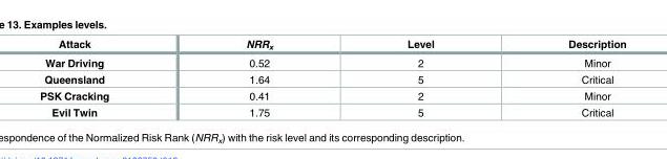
<table><thead><tr><td>Attack</td><td>NRR<sub>x</sub></td><td>Level</td><td>Description</td></tr></thead><tbody><tr><td>War Driving</td><td>0.52</td><td>2</td><td>Minor</td></tr><tr><td>Queensland</td><td>1.64</td><td>5</td><td>Critical</td></tr><tr><td>PSK Cracking</td><td>0.41</td><td>2</td><td>Minor</td></tr><tr><td>Evil Twin</td><td>1.75</td><td>5</td><td>Critical</td></tr></tbody></table>